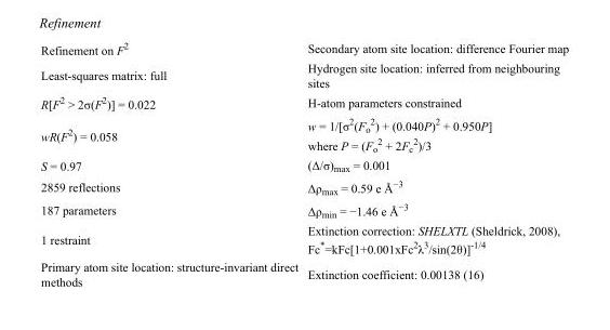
<table><tbody><tr><td>Refinement on F<sup>2</sup></td><td>Secondary atom site location: difference Fourier map</td></tr><tr><td>Least-squares matrix: full</td><td>Hydrogen site location: inferred from neighbouring sites</td></tr><tr><td>R[F<sup>2</sup> &gt; 2σ(F<sup>2</sup>)] = 0.022</td><td>H-atom parameters constrained</td></tr><tr><td>wR(F<sup>2</sup>) = 0.058</td><td>w = 1/[σ<sup>2</sup>(F<sub>o</sub> <sup>2</sup>) + (0.040P)<sup>2</sup> + 0.950P] where P = (F<sub>o</sub> <sup>2</sup> + 2F<sub>c</sub> <sup>2</sup>)/3</td></tr><tr><td>S = 0.97</td><td>(Δ/σ)<sub>max</sub> = 0.001</td></tr><tr><td>2859 reflections</td><td>Δρ<sub>max</sub> = 0.59 e Å<sup>−3</sup></td></tr><tr><td>187 parameters</td><td>Δρ<sub>min</sub> = −1.46 e Å<sup>−3</sup></td></tr><tr><td>1 restraint</td><td>Extinction correction: SHELXTL (Sheldrick, 2008), Fc*=kFc[1+0.001xFc<sup>2</sup>λ<sup>3</sup>/sin(2θ)]<sup>-1/4</sup></td></tr><tr><td>Primary atom site location: structure-invariant direct methods</td><td>Extinction coefficient: 0.00138 (16)</td></tr></tbody></table>